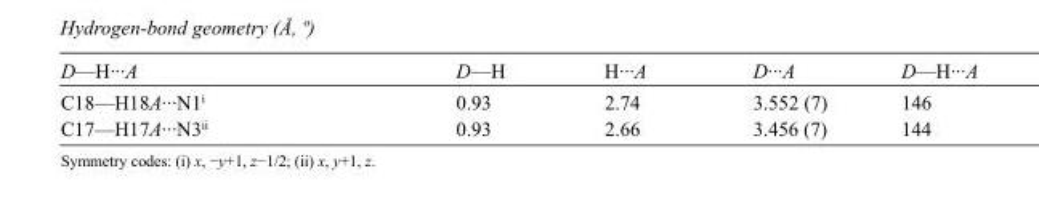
<table><tbody><tr><td>D—H···A</td><td>D—H</td><td>H···A</td><td>D···A</td><td>D—H···A</td></tr><tr><td>C18—H18A···N1<sup>i</sup></td><td>0.93</td><td>2.74</td><td>3.552 (7)</td><td>146</td></tr><tr><td>C17—H17A···N3<sup>ii</sup></td><td>0.93</td><td>2.66</td><td>3.456 (7)</td><td>144</td></tr></tbody></table>